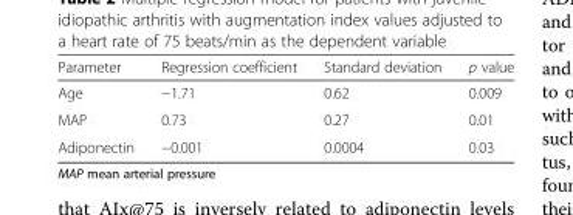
<table><thead><tr><td>Parameter</td><td>Regression coefficient</td><td>Standard deviation</td><td>p value</td></tr></thead><tbody><tr><td>Age</td><td>−1.71</td><td>0.62</td><td>0.009</td></tr><tr><td>MAP</td><td>0.73</td><td>0.27</td><td>0.01</td></tr><tr><td>Adiponectin</td><td>−0.001</td><td>0.0004</td><td>0.03</td></tr></tbody></table>